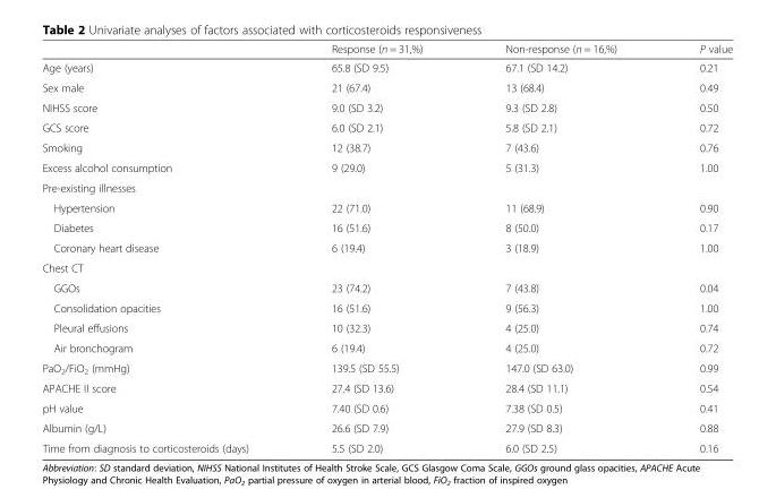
<table><thead><tr><td></td><td>Response (n = 31,%)</td><td>Non-response (n = 16,%)</td><td>P value</td></tr></thead><tbody><tr><td>Age (years)</td><td>65.8 (SD 9.5)</td><td>67.1 (SD 14.2)</td><td>0.21</td></tr><tr><td>Sex male</td><td>21 (67.4)</td><td>13 (68.4)</td><td>0.49</td></tr><tr><td>NIHSS score</td><td>9.0 (SD 3.2)</td><td>9.3 (SD 2.8)</td><td>0.50</td></tr><tr><td>GCS score</td><td>6.0 (SD 2.1)</td><td>5.8 (SD 2.1)</td><td>0.72</td></tr><tr><td>Smoking</td><td>12 (38.7)</td><td>7 (43.6)</td><td>0.76</td></tr><tr><td>Excess alcohol consumption</td><td>9 (29.0)</td><td>5 (31.3)</td><td>1.00</td></tr><tr><td colspan="4">Pre-existing illnesses</td></tr><tr><td>Hypertension</td><td>22 (71.0)</td><td>11 (68.9)</td><td>0.90</td></tr><tr><td>Diabetes</td><td>16 (51.6)</td><td>8 (50.0)</td><td>0.17</td></tr><tr><td>Coronary heart disease</td><td>6 (19.4)</td><td>3 (18.9)</td><td>1.00</td></tr><tr><td colspan="4">Chest CT</td></tr><tr><td>GGOs</td><td>23 (74.2)</td><td>7 (43.8)</td><td>0.04</td></tr><tr><td>Consolidation opacities</td><td>16 (51.6)</td><td>9 (56.3)</td><td>1.00</td></tr><tr><td>Pleural effusions</td><td>10 (32.3)</td><td>4 (25.0)</td><td>0.74</td></tr><tr><td>Air bronchogram</td><td>6 (19.4)</td><td>4 (25.0)</td><td>0.72</td></tr><tr><td>PaO<sub>2</sub>/FiO<sub>2</sub> (mmHg)</td><td>139.5 (SD 55.5)</td><td>147.0 (SD 63.0)</td><td>0.99</td></tr><tr><td>APACHE II score</td><td>27.4 (SD 13.6)</td><td>28.4 (SD 11.1)</td><td>0.54</td></tr><tr><td>pH value</td><td>7.40 (SD 0.6)</td><td>7.38 (SD 0.5)</td><td>0.41</td></tr><tr><td>Albumin (g/L)</td><td>26.6 (SD 7.9)</td><td>27.9 (SD 8.3)</td><td>0.88</td></tr><tr><td>Time from diagnosis to corticosteroids (days)</td><td>5.5 (SD 2.0)</td><td>6.0 (SD 2.5)</td><td>0.16</td></tr></tbody></table>